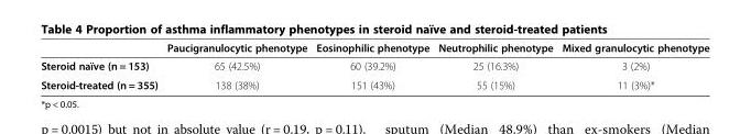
<table><thead><tr><td></td><td>Paucigranulocytic phenotype</td><td>Eosinophilic phenotype</td><td>Neutrophilic phenotype</td><td>Mixed granulocytic phenotype</td></tr></thead><tbody><tr><td>Steroid naïve (n = 153)</td><td>65 (42.5%)</td><td>60 (39.2%)</td><td>25 (16.3%)</td><td>3 (2%)</td></tr><tr><td>Steroid-treated (n = 355)</td><td>138 (38%)</td><td>151 (43%)</td><td>55 (15%)</td><td>11 (3%)*</td></tr></tbody></table>